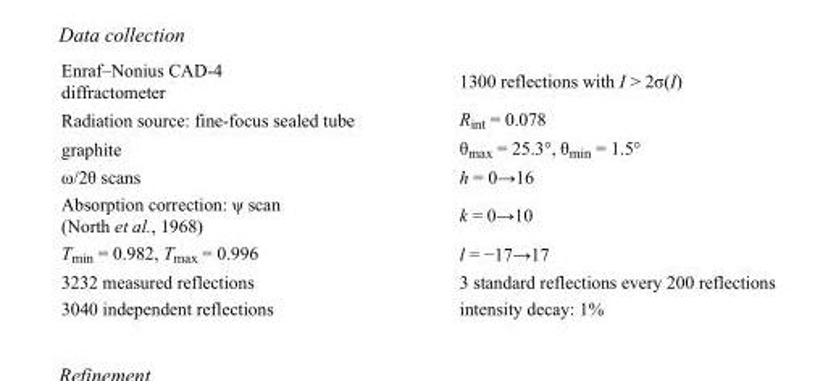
<table><tbody><tr><td>Enraf–Nonius CAD-4 diffractometer</td><td>1300 reflections with I &gt; 2σ(I)</td></tr><tr><td>Radiation source: fine-focus sealed tube</td><td>R<sub>int</sub> = 0.078</td></tr><tr><td>graphite</td><td>θ<sub>max</sub> = 25.3°, θ<sub>min</sub> = 1.5°</td></tr><tr><td>ω/2θ scans</td><td>h = 0→16</td></tr><tr><td>Absorption correction: ψ scan (North et al., 1968)</td><td>k = 0→10</td></tr><tr><td>T<sub>min</sub> = 0.982, T<sub>max</sub> = 0.996</td><td>l = −17→17</td></tr><tr><td>3232 measured reflections</td><td>3 standard reflections every 200 reflections</td></tr><tr><td>3040 independent reflections</td><td>intensity decay: 1%</td></tr></tbody></table>